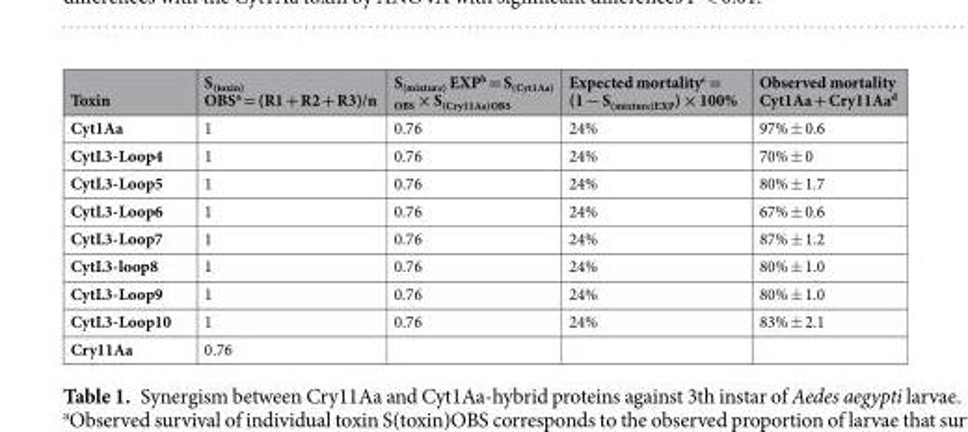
<table><thead><tr><td>Toxin</td><td>S<sub>(toxin)</sub> OBS<sup>a</sup> = (R1 + R2 + R3)/n</td><td>S<sub>(mixture)</sub> EXP<sup>b</sup> = S<sub>(Cyt1Aa) OBS</sub> × S<sub>(Cry11Aa)OBS</sub></td><td>Expected mortality<sup>c</sup> = (1 − S<sub>(mixture)EXP</sub>) × 100%</td><td>Observed mortality Cyt1Aa + Cry11Aa<sup>d</sup></td></tr></thead><tbody><tr><td>Cyt1Aa</td><td>1</td><td>0.76</td><td>24%</td><td>97% ± 0.6</td></tr><tr><td>CytL3-Loop4</td><td>1</td><td>0.76</td><td>24%</td><td>70% ± 0</td></tr><tr><td>CytL3-Loop5</td><td>1</td><td>0.76</td><td>24%</td><td>80% ± 1.7</td></tr><tr><td>CytL3-Loop6</td><td>1</td><td>0.76</td><td>24%</td><td>67% ± 0.6</td></tr><tr><td>CytL3-Loop7</td><td>1</td><td>0.76</td><td>24%</td><td>87% ± 1.2</td></tr><tr><td>CytL3-loop8</td><td>1</td><td>0.76</td><td>24%</td><td>80% ± 1.0</td></tr><tr><td>CytL3-Loop9</td><td>1</td><td>0.76</td><td>24%</td><td>80% ± 1.0</td></tr><tr><td>CytL3-Loop10</td><td>1</td><td>0.76</td><td>24%</td><td>83% ± 2.1</td></tr><tr><td>Cry11Aa</td><td>0.76</td><td></td><td></td><td></td></tr></tbody></table>